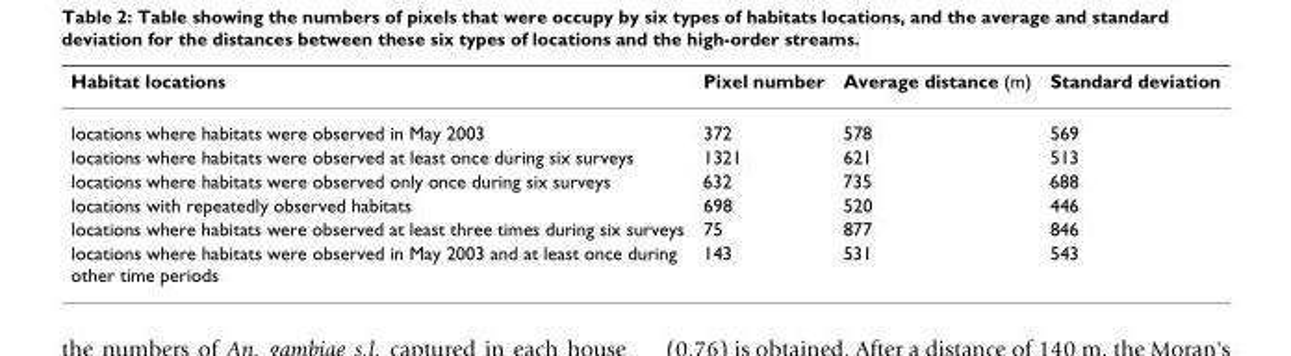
<table><thead><tr><td>Habitat locations</td><td>Pixel number</td><td>Average distance (m)</td><td>Standard deviation</td></tr></thead><tbody><tr><td>locations where habitats were observed in May 2003</td><td>372</td><td>578</td><td>569</td></tr><tr><td>locations where habitats were observed at least once during six surveys</td><td>1321</td><td>621</td><td>513</td></tr><tr><td>locations where habitats were observed only once during six surveys</td><td>632</td><td>735</td><td>688</td></tr><tr><td>locations with repeatedly observed habitats</td><td>698</td><td>520</td><td>446</td></tr><tr><td>locations where habitats were observed at least three times during six surveys</td><td>75</td><td>877</td><td>846</td></tr><tr><td>locations where habitats were observed in May 2003 and at least once during other time periods</td><td>143</td><td>531</td><td>543</td></tr></tbody></table>